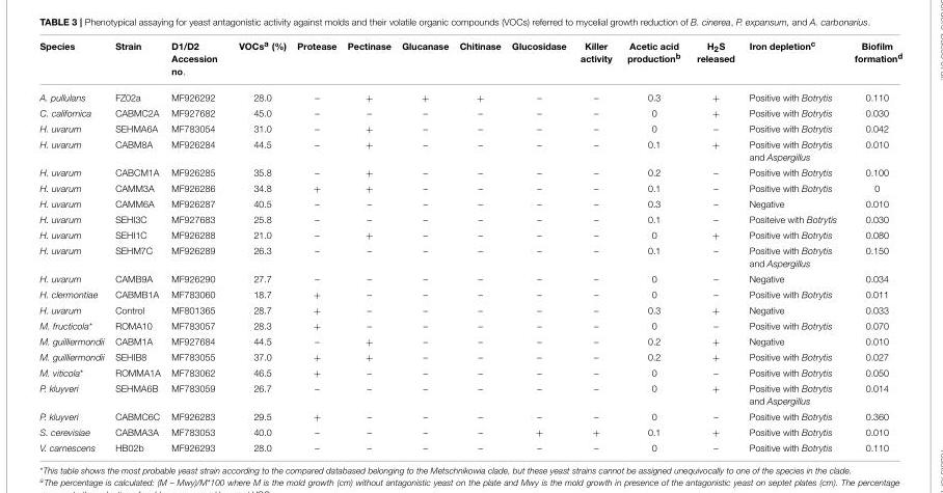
<table><thead><tr><td>Species</td><td>Strain</td><td>D1/D2 Accession no.</td><td>VOCs<sup>a</sup> (%)</td><td>Protease</td><td>Pectinase</td><td>Glucanase</td><td>Chitinase</td><td>Glucosidase</td><td>Killer activity</td><td>Acetic acid production<sup>b</sup></td><td>H<sub>2</sub>S released</td><td>Iron depletion<sup>c</sup></td><td>Biofilm formation<sup>d</sup></td></tr></thead><tbody><tr><td>A. pullulans</td><td>FZ02a</td><td>MF926292</td><td>28.0</td><td>–</td><td>+</td><td>+</td><td>+</td><td>–</td><td>–</td><td>0.3</td><td>+</td><td>Positive with Botrytis</td><td>0.110</td></tr><tr><td>C. californica</td><td>CABMC2A</td><td>MF927682</td><td>45.0</td><td>–</td><td>–</td><td>–</td><td>–</td><td>–</td><td>–</td><td>0</td><td>+</td><td>Positive with Botrytis</td><td>0.030</td></tr><tr><td>H. uvarum</td><td>SEHMA6A</td><td>MF783054</td><td>31.0</td><td>–</td><td>+</td><td>–</td><td>–</td><td>–</td><td>–</td><td>0</td><td>–</td><td>Positive with Botrytis</td><td>0.042</td></tr><tr><td>H. uvarum</td><td>CABM8A</td><td>MF926284</td><td>44.5</td><td>–</td><td>+</td><td>–</td><td>–</td><td>–</td><td>–</td><td>0.1</td><td>+</td><td>Positive with Botrytis and Aspergillus</td><td>0.010</td></tr><tr><td>H. uvarum</td><td>CABCM1A</td><td>MF926285</td><td>35.8</td><td>–</td><td>+</td><td>–</td><td>–</td><td>–</td><td>–</td><td>0.2</td><td>–</td><td>Positive with Botrytis</td><td>0.100</td></tr><tr><td>H. uvarum</td><td>CAMM3A</td><td>MF926286</td><td>34.8</td><td>+</td><td>+</td><td>–</td><td>–</td><td>–</td><td>–</td><td>0.1</td><td>–</td><td>Positive with Botrytis</td><td>0</td></tr><tr><td>H. uvarum</td><td>CAMM6A</td><td>MF926287</td><td>40.5</td><td>–</td><td>–</td><td>–</td><td>–</td><td>–</td><td>–</td><td>0.3</td><td>–</td><td>Negative</td><td>0.010</td></tr><tr><td>H. uvarum</td><td>SEHI3C</td><td>MF927683</td><td>25.8</td><td>–</td><td>–</td><td>–</td><td>–</td><td>–</td><td>–</td><td>0.1</td><td>–</td><td>Positeive with Botrytis</td><td>0.030</td></tr><tr><td>H. uvarum</td><td>SEHI1C</td><td>MF926288</td><td>21.0</td><td>–</td><td>+</td><td>–</td><td>–</td><td>–</td><td>–</td><td>0</td><td>+</td><td>Positive with Botrytis</td><td>0.080</td></tr><tr><td>H. uvarum</td><td>SEHM7C</td><td>MF926289</td><td>26.3</td><td>–</td><td>–</td><td>–</td><td>–</td><td>–</td><td>–</td><td>0.1</td><td>–</td><td>Positive with Botrytis and Aspergillus</td><td>0.150</td></tr><tr><td>H. uvarum</td><td>CAMB9A</td><td>MF926290</td><td>27.7</td><td>–</td><td>–</td><td>–</td><td>–</td><td>–</td><td>–</td><td>0</td><td>–</td><td>Negative</td><td>0.034</td></tr><tr><td>H. clermontiae</td><td>CABMB1A</td><td>MF783060</td><td>18.7</td><td>+</td><td>–</td><td>–</td><td>–</td><td>–</td><td>–</td><td>0</td><td>–</td><td>Positive with Botrytis</td><td>0.011</td></tr><tr><td>H. uvarum</td><td>Control</td><td>MF801365</td><td>28.7</td><td>+</td><td>–</td><td>–</td><td>–</td><td>–</td><td>–</td><td>0.3</td><td>+</td><td>Negative</td><td>0.033</td></tr><tr><td>M. fructicola*</td><td>ROMA10</td><td>MF783057</td><td>28.3</td><td>+</td><td>–</td><td>–</td><td>–</td><td>–</td><td>–</td><td>0</td><td>–</td><td>Positive with Botrytis</td><td>0.070</td></tr><tr><td>M. guilliermondii</td><td>CABM1A</td><td>MF927684</td><td>44.5</td><td>–</td><td>+</td><td>–</td><td>–</td><td>–</td><td>–</td><td>0.2</td><td>+</td><td>Negative</td><td>0.010</td></tr><tr><td>M. guilliermondii</td><td>SEHIB8</td><td>MF783055</td><td>37.0</td><td>+</td><td>+</td><td>–</td><td>–</td><td>–</td><td>–</td><td>0.2</td><td>+</td><td>Positive with Botrytis</td><td>0.027</td></tr><tr><td>M. viticola*</td><td>ROMMA1A</td><td>MF783062</td><td>46.5</td><td>+</td><td>–</td><td>–</td><td>–</td><td>–</td><td>–</td><td>0</td><td>–</td><td>Positive with Botrytis</td><td>0.050</td></tr><tr><td>P. kluyveri</td><td>SEHMA6B</td><td>MF783059</td><td>26.7</td><td>–</td><td>–</td><td>–</td><td>–</td><td>–</td><td>–</td><td>0</td><td>+</td><td>Positive with Botrytis and Aspergillus</td><td>0.014</td></tr><tr><td>P. kluyveri</td><td>CABMC6C</td><td>MF926283</td><td>29.5</td><td>+</td><td>–</td><td>–</td><td>–</td><td>–</td><td>–</td><td>0</td><td>–</td><td>Positive with Botrytis</td><td>0.360</td></tr><tr><td>S. cerevisiae</td><td>CABMA3A</td><td>MF783053</td><td>40.0</td><td>–</td><td>–</td><td>–</td><td>–</td><td>+</td><td>+</td><td>0.1</td><td>+</td><td>Positive with Botrytis</td><td>0.010</td></tr><tr><td>V. carnescens</td><td>HB02b</td><td>MF926293</td><td>28.0</td><td>–</td><td>–</td><td>–</td><td>–</td><td>–</td><td>–</td><td>0</td><td>–</td><td>Positive with Botrytis</td><td>0.110</td></tr></tbody></table>